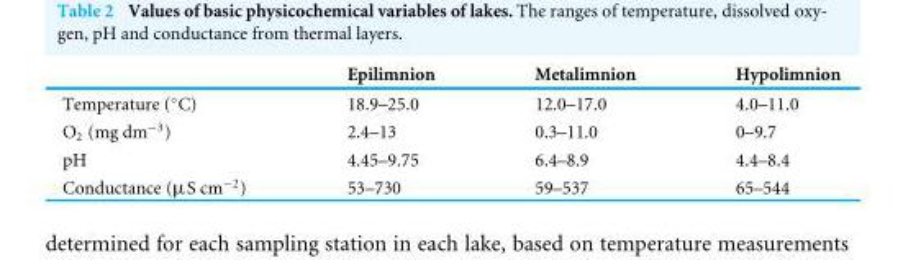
<table><thead><tr><td></td><td>Epilimnion</td><td>Metalimnion</td><td>Hypolimnion</td></tr></thead><tbody><tr><td>Temperature (◦C)</td><td>18.9–25.0</td><td>12.0–17.0</td><td>4.0–11.0</td></tr><tr><td>O<sub>2</sub> (mg dm<sup>−3</sup>)</td><td>2.4–13</td><td>0.3–11.0</td><td>0–9.7</td></tr><tr><td>pH</td><td>4.45–9.75</td><td>6.4–8.9</td><td>4.4–8.4</td></tr><tr><td>Conductance (µS cm<sup>−2</sup>)</td><td>53–730</td><td>59–537</td><td>65–544</td></tr></tbody></table>